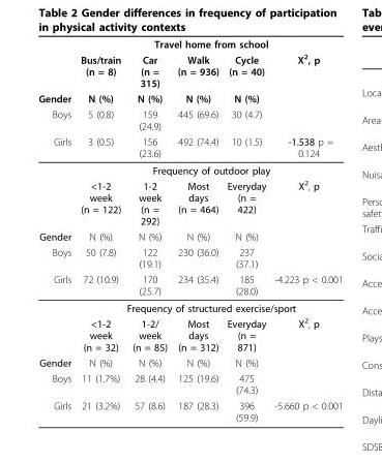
<table><thead><tr><td rowspan="5">Gender Boys Girls</td><td colspan="5">Travel home from school</td></tr><tr><td rowspan="4">Bus/train (n = 8) N (%) 5 (0.8) 3 (0.5)</td><td rowspan="4">Car (n = 315) N (%) 159 (24.9) 156 (23.6)</td><td rowspan="4">Walk (n = 936) N (%) 445 (69.6) 492 (74.4)</td><td rowspan="4">Cycle (n = 40) N (%) 30 (4.7) 10 (1.5)</td><td rowspan="4">Χ2, p -1.538 p = 0.124</td></tr><tr></tr><tr></tr><tr></tr></thead><tbody><tr><td></td><td colspan="5">Frequency of outdoor play</td></tr><tr><td></td><td>&lt;1-2 week (n = 122)</td><td>1-2 week (n = 292)</td><td>Most days (n = 464)</td><td>Everyday (n = 422)</td><td>Χ<sup>2</sup>, p</td></tr><tr><td>Gender</td><td>N (%)</td><td>N (%)</td><td>N (%)</td><td>N (%)</td><td></td></tr><tr><td>Boys</td><td>50 (7.8)</td><td>122 (19.1)</td><td>230 (36.0)</td><td>237 (37.1)</td><td></td></tr><tr><td rowspan="3">Girls</td><td>72 (10.9)</td><td>170 (25.7)</td><td>234 (35.4)</td><td>185 (28.0)</td><td>-4.223 p &lt; 0.001</td></tr><tr><td colspan="5">Frequency of structured exercise/sport</td></tr><tr><td>&lt;1-2 week (n = 32)</td><td>1-2/ week (n = 85)</td><td>Most days (n = 312)</td><td>Everyday (n = 871)</td><td>Χ<sup>2</sup>, p</td></tr><tr><td>Gender</td><td>N (%)</td><td>N (%)</td><td>N (%)</td><td>N (%)</td><td></td></tr><tr><td>Boys</td><td>11 (1.7%)</td><td>28 (4.4)</td><td>125 (19.6)</td><td>475 (74.3)</td><td></td></tr><tr><td>Girls</td><td>21 (3.2%)</td><td>57 (8.6)</td><td>187 (28.3)</td><td>396 (59.9)</td><td>-5.660 p &lt; 0.001</td></tr></tbody></table>